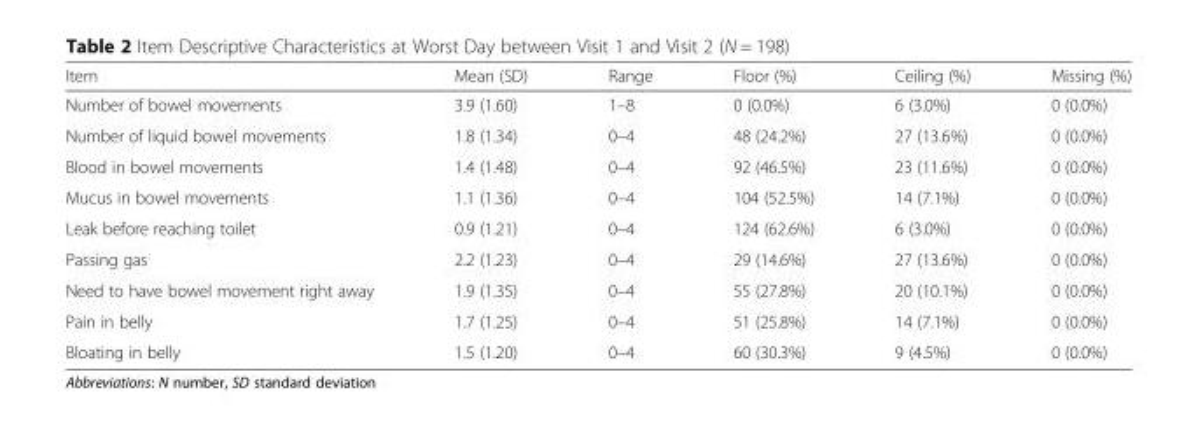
<table><thead><tr><td>Item</td><td>Mean (SD)</td><td>Range</td><td>Floor (%)</td><td>Ceiling (%)</td><td>Missing (%)</td></tr></thead><tbody><tr><td>Number of bowel movements</td><td>3.9 (1.60)</td><td>1–8</td><td>0 (0.0%)</td><td>6 (3.0%)</td><td>0 (0.0%)</td></tr><tr><td>Number of liquid bowel movements</td><td>1.8 (1.34)</td><td>0–4</td><td>48 (24.2%)</td><td>27 (13.6%)</td><td>0 (0.0%)</td></tr><tr><td>Blood in bowel movements</td><td>1.4 (1.48)</td><td>0–4</td><td>92 (46.5%)</td><td>23 (11.6%)</td><td>0 (0.0%)</td></tr><tr><td>Mucus in bowel movements</td><td>1.1 (1.36)</td><td>0–4</td><td>104 (52.5%)</td><td>14 (7.1%)</td><td>0 (0.0%)</td></tr><tr><td>Leak before reaching toilet</td><td>0.9 (1.21)</td><td>0–4</td><td>124 (62.6%)</td><td>6 (3.0%)</td><td>0 (0.0%)</td></tr><tr><td>Passing gas</td><td>2.2 (1.23)</td><td>0–4</td><td>29 (14.6%)</td><td>27 (13.6%)</td><td>0 (0.0%)</td></tr><tr><td>Need to have bowel movement right away</td><td>1.9 (1.35)</td><td>0–4</td><td>55 (27.8%)</td><td>20 (10.1%)</td><td>0 (0.0%)</td></tr><tr><td>Pain in belly</td><td>1.7 (1.25)</td><td>0–4</td><td>51 (25.8%)</td><td>14 (7.1%)</td><td>0 (0.0%)</td></tr><tr><td>Bloating in belly</td><td>1.5 (1.20)</td><td>0–4</td><td>60 (30.3%)</td><td>9 (4.5%)</td><td>0 (0.0%)</td></tr></tbody></table>